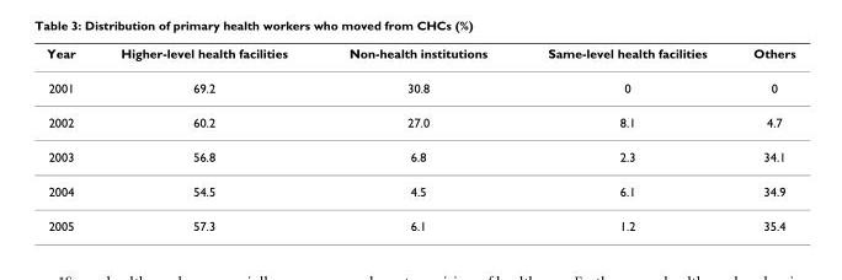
<table><thead><tr><td>Year</td><td>Higher-level health facilities</td><td>Non-health institutions</td><td>Same-level health facilities</td><td>Others</td></tr></thead><tbody><tr><td>2001</td><td>69.2</td><td>30.8</td><td>0</td><td>0</td></tr><tr><td>2002</td><td>60.2</td><td>27.0</td><td>8.1</td><td>4.7</td></tr><tr><td>2003</td><td>56.8</td><td>6.8</td><td>2.3</td><td>34.1</td></tr><tr><td>2004</td><td>54.5</td><td>4.5</td><td>6.1</td><td>34.9</td></tr><tr><td>2005</td><td>57.3</td><td>6.1</td><td>1.2</td><td>35.4</td></tr></tbody></table>